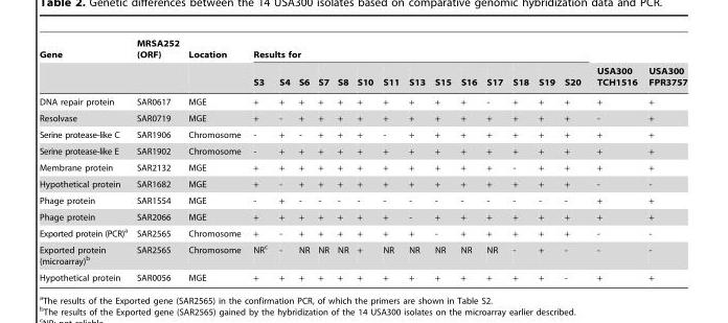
<table><thead><tr><td rowspan="2">Gene</td><td rowspan="2">MRSA252 (ORF)</td><td rowspan="2">Location</td><td colspan="14">Results for</td><td rowspan="2">USA300 TCH1516</td><td rowspan="2">USA300 FPR3757</td></tr><tr><td>S3</td><td>S4</td><td>S6</td><td>S7</td><td>S8</td><td>S10</td><td>S11</td><td>S13</td><td>S15</td><td>S16</td><td>S17</td><td>S18</td><td>S19</td><td>S20</td></tr></thead><tbody><tr><td>DNA repair protein</td><td>SAR0617</td><td>MGE</td><td>+</td><td>+</td><td>+</td><td>+</td><td>+</td><td>+</td><td>+</td><td>+</td><td>+</td><td>+</td><td>-</td><td>+</td><td>+</td><td>+</td><td>+</td><td>+</td></tr><tr><td>Resolvase</td><td>SAR0719</td><td>MGE</td><td>+</td><td>-</td><td>+</td><td>+</td><td>+</td><td>+</td><td>+</td><td>+</td><td>+</td><td>+</td><td>+</td><td>+</td><td>+</td><td>+</td><td>-</td><td>+</td></tr><tr><td>Serine protease-like C</td><td>SAR1906</td><td>Chromosome</td><td>-</td><td>+</td><td>-</td><td>+</td><td>+</td><td>+</td><td>-</td><td>+</td><td>+</td><td>+</td><td>+</td><td>+</td><td>+</td><td>+</td><td>+</td><td>+</td></tr><tr><td>Serine protease-like E</td><td>SAR1902</td><td>Chromosome</td><td>-</td><td>+</td><td>+</td><td>+</td><td>+</td><td>+</td><td>+</td><td>+</td><td>+</td><td>+</td><td>+</td><td>+</td><td>+</td><td>+</td><td>+</td><td>+</td></tr><tr><td>Membrane protein</td><td>SAR2132</td><td>MGE</td><td>+</td><td>+</td><td>+</td><td>+</td><td>+</td><td>+</td><td>+</td><td>+</td><td>+</td><td>+</td><td>+</td><td>-</td><td>+</td><td>+</td><td>+</td><td>+</td></tr><tr><td>Hypothetical protein</td><td>SAR1682</td><td>MGE</td><td>+</td><td>-</td><td>+</td><td>+</td><td>+</td><td>+</td><td>+</td><td>+</td><td>+</td><td>+</td><td>+</td><td>+</td><td>+</td><td>+</td><td>-</td><td>-</td></tr><tr><td>Phage protein</td><td>SAR1554</td><td>MGE</td><td>-</td><td>+</td><td>-</td><td>-</td><td>-</td><td>-</td><td>-</td><td>-</td><td>-</td><td>-</td><td>-</td><td>-</td><td>-</td><td>-</td><td>+</td><td>+</td></tr><tr><td>Phage protein</td><td>SAR2066</td><td>MGE</td><td>+</td><td>+</td><td>+</td><td>+</td><td>+</td><td>+</td><td>+</td><td>-</td><td>+</td><td>+</td><td>+</td><td>+</td><td>+</td><td>+</td><td>+</td><td>+</td></tr><tr><td>Exported protein (PCR)<sup>a</sup></td><td>SAR2565</td><td>Chromosome</td><td>+</td><td>-</td><td>+</td><td>+</td><td>+</td><td>+</td><td>+</td><td>+</td><td>-</td><td>+</td><td>+</td><td>+</td><td>+</td><td>+</td><td>-</td><td>-</td></tr><tr><td>Exported protein (microarray)<sup>b</sup></td><td>SAR2565</td><td>Chromosome</td><td>NR<sup>c</sup></td><td>-</td><td>NR</td><td>NR</td><td>NR</td><td>+</td><td>NR</td><td>NR</td><td>NR</td><td>NR</td><td>NR</td><td>-</td><td>+</td><td>-</td><td>-</td><td>-</td></tr><tr><td>Hypothetical protein</td><td>SAR0056</td><td>MGE</td><td>+</td><td>+</td><td>+</td><td>+</td><td>+</td><td>+</td><td>+</td><td>+</td><td>+</td><td>+</td><td>+</td><td>+</td><td>+</td><td>-</td><td>+</td><td>+</td></tr></tbody></table>